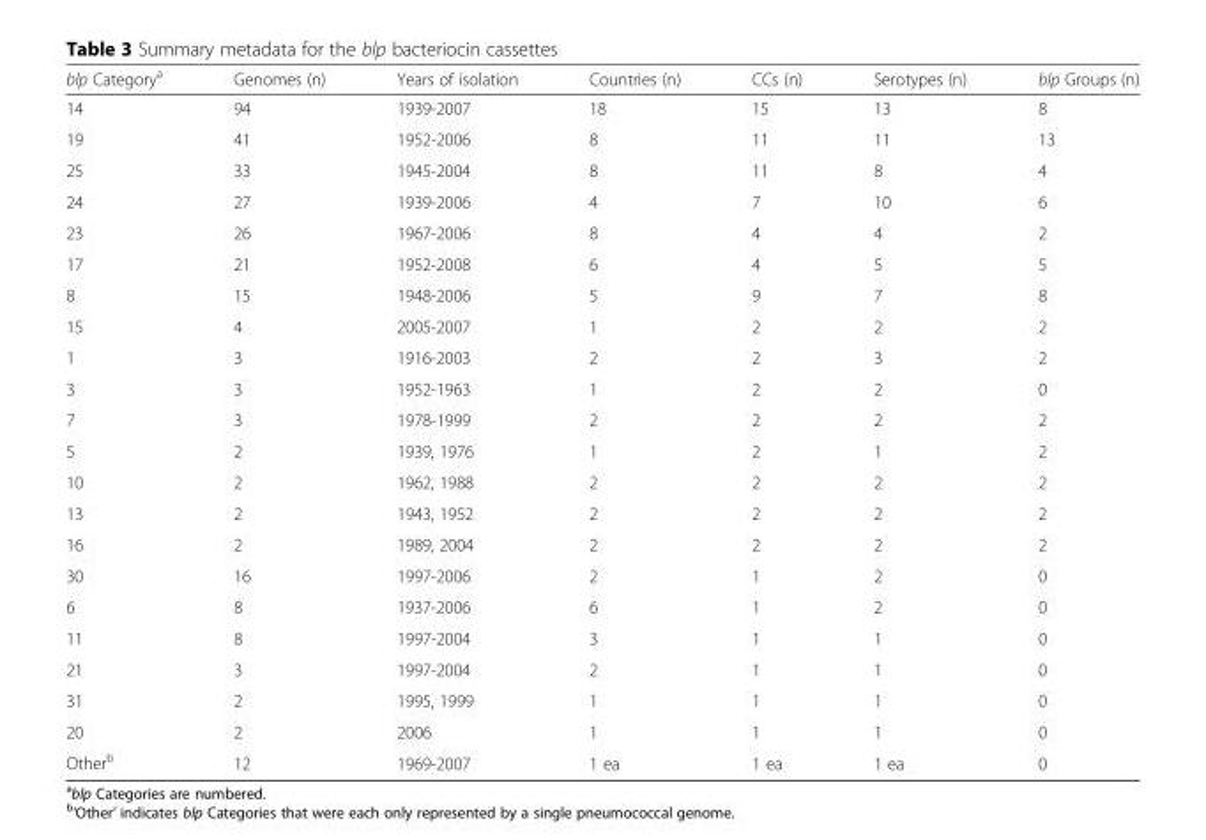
<table><thead><tr><td>blp Category<sup>a</sup></td><td>Genomes (n)</td><td>Years of isolation</td><td>Countries (n)</td><td>CCs (n)</td><td>Serotypes (n)</td><td>blp Groups (n)</td></tr></thead><tbody><tr><td>14</td><td>94</td><td>1939-2007</td><td>18</td><td>15</td><td>13</td><td>8</td></tr><tr><td>19</td><td>41</td><td>1952-2006</td><td>8</td><td>11</td><td>11</td><td>13</td></tr><tr><td>25</td><td>33</td><td>1945-2004</td><td>8</td><td>11</td><td>8</td><td>4</td></tr><tr><td>24</td><td>27</td><td>1939-2006</td><td>4</td><td>7</td><td>10</td><td>6</td></tr><tr><td>23</td><td>26</td><td>1967-2006</td><td>8</td><td>4</td><td>4</td><td>2</td></tr><tr><td>17</td><td>21</td><td>1952-2008</td><td>6</td><td>4</td><td>5</td><td>5</td></tr><tr><td>8</td><td>15</td><td>1948-2006</td><td>5</td><td>9</td><td>7</td><td>8</td></tr><tr><td>15</td><td>4</td><td>2005-2007</td><td>1</td><td>2</td><td>2</td><td>2</td></tr><tr><td>1</td><td>3</td><td>1916-2003</td><td>2</td><td>2</td><td>3</td><td>2</td></tr><tr><td>3</td><td>3</td><td>1952-1963</td><td>1</td><td>2</td><td>2</td><td>0</td></tr><tr><td>7</td><td>3</td><td>1978-1999</td><td>2</td><td>2</td><td>2</td><td>2</td></tr><tr><td>5</td><td>2</td><td>1939, 1976</td><td>1</td><td>2</td><td>1</td><td>2</td></tr><tr><td>10</td><td>2</td><td>1962, 1988</td><td>2</td><td>2</td><td>2</td><td>2</td></tr><tr><td>13</td><td>2</td><td>1943, 1952</td><td>2</td><td>2</td><td>2</td><td>2</td></tr><tr><td>16</td><td>2</td><td>1989, 2004</td><td>2</td><td>2</td><td>2</td><td>2</td></tr><tr><td>30</td><td>16</td><td>1997-2006</td><td>2</td><td>1</td><td>2</td><td>0</td></tr><tr><td>6</td><td>8</td><td>1937-2006</td><td>6</td><td>1</td><td>2</td><td>0</td></tr><tr><td>11</td><td>8</td><td>1997-2004</td><td>3</td><td>1</td><td>1</td><td>0</td></tr><tr><td>21</td><td>3</td><td>1997-2004</td><td>2</td><td>1</td><td>1</td><td>0</td></tr><tr><td>31</td><td>2</td><td>1995, 1999</td><td>1</td><td>1</td><td>1</td><td>0</td></tr><tr><td>20</td><td>2</td><td>2006</td><td>1</td><td>1</td><td>1</td><td>0</td></tr><tr><td>Other<sup>b</sup></td><td>12</td><td>1969-2007</td><td>1 ea</td><td>1 ea</td><td>1 ea</td><td>0</td></tr></tbody></table>